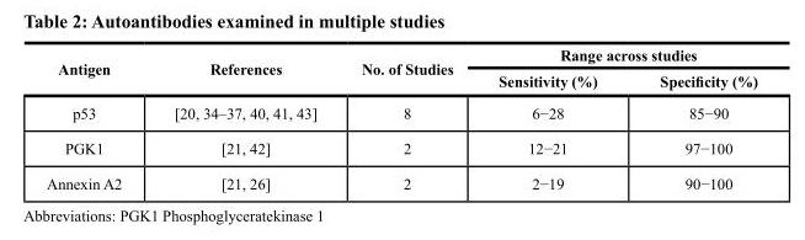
<table><thead><tr><td rowspan="2">Antigen</td><td rowspan="2">references</td><td rowspan="2">no. of studies</td><td colspan="2">range across studies</td></tr><tr><td>sensitivity (%)</td><td>Specificity (%)</td></tr></thead><tbody><tr><td>p53</td><td>[20, 34–37, 40, 41, 43]</td><td>8</td><td>6−28</td><td>85−90</td></tr><tr><td>PGK1</td><td>[21, 42]</td><td>2</td><td>12−21</td><td>97−100</td></tr><tr><td>Annexin A2</td><td>[21, 26]</td><td>2</td><td>2−19</td><td>90−100</td></tr></tbody></table>